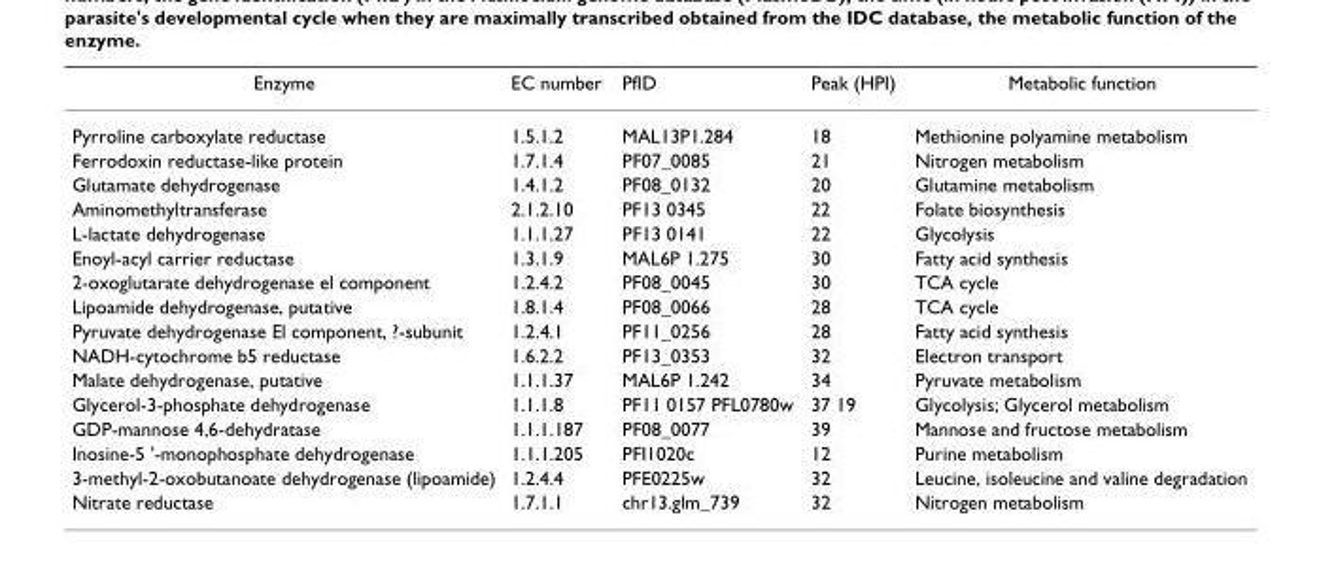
<table><thead><tr><td>Enzyme</td><td>EC number</td><td>PfID</td><td>Peak (HPI)</td><td>Metabolic function</td></tr></thead><tbody><tr><td>Pyrroline carboxylate reductase</td><td>1.5.1.2</td><td>MAL13P1.284</td><td>18</td><td>Methionine polyamine metabolism</td></tr><tr><td>Ferrodoxin reductase-like protein</td><td>1.7.1.4</td><td>PF07_0085</td><td>21</td><td>Nitrogen metabolism</td></tr><tr><td>Glutamate dehydrogenase</td><td>1.4.1.2</td><td>PF08_0132</td><td>20</td><td>Glutamine metabolism</td></tr><tr><td>Aminomethyltransferase</td><td>2.1.2.10</td><td>PF13 0345</td><td>22</td><td>Folate biosynthesis</td></tr><tr><td>L-lactate dehydrogenase</td><td>1.1.1.27</td><td>PF13 0141</td><td>22</td><td>Glycolysis</td></tr><tr><td>Enoyl-acyl carrier reductase</td><td>1.3.1.9</td><td>MAL6P 1.275</td><td>30</td><td>Fatty acid synthesis</td></tr><tr><td>2-oxoglutarate dehydrogenase el component</td><td>1.2.4.2</td><td>PF08_0045</td><td>30</td><td>TCA cycle</td></tr><tr><td>Lipoamide dehydrogenase, putative</td><td>1.8.1.4</td><td>PF08_0066</td><td>28</td><td>TCA cycle</td></tr><tr><td>Pyruvate dehydrogenase El component, ?-subunit</td><td>1.2.4.1</td><td>PF11_0256</td><td>28</td><td>Fatty acid synthesis</td></tr><tr><td>NADH-cytochrome b5 reductase</td><td>1.6.2.2</td><td>PF13_0353</td><td>32</td><td>Electron transport</td></tr><tr><td>Malate dehydrogenase, putative</td><td>1.1.1.37</td><td>MAL6P 1.242</td><td>34</td><td>Pyruvate metabolism</td></tr><tr><td>Glycerol-3-phosphate dehydrogenase</td><td>1.1.1.8</td><td>PF11 0157 PFL0780w</td><td>37 19</td><td>Glycolysis; Glycerol metabolism</td></tr><tr><td>GDP-mannose 4,6-dehydratase</td><td>1.1.1.187</td><td>PF08_0077</td><td>39</td><td>Mannose and fructose metabolism</td></tr><tr><td>Inosine-5 &#x27;-monophosphate dehydrogenase</td><td>1.1.1.205</td><td>PFI1020c</td><td>12</td><td>Purine metabolism</td></tr><tr><td>3-methyl-2-oxobutanoate dehydrogenase (lipoamide)</td><td>1.2.4.4</td><td>PFE0225w</td><td>32</td><td>Leucine, isoleucine and valine degradation</td></tr><tr><td>Nitrate reductase</td><td>1.7.1.1</td><td>chr13.glm_739</td><td>32</td><td>Nitrogen metabolism</td></tr></tbody></table>